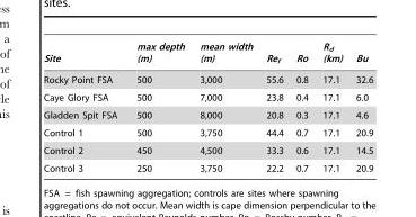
<table><thead><tr><td>Site</td><td>max depth (m)</td><td>mean width (m)</td><td>Re<sub>f</sub></td><td>Ro</td><td>R<sub>d</sub> (km)</td><td>Bu</td></tr></thead><tbody><tr><td>Rocky Point FSA</td><td>500</td><td>3,000</td><td>55.6</td><td>0.8</td><td>17.1</td><td>32.6</td></tr><tr><td>Caye Glory FSA</td><td>500</td><td>7,000</td><td>23.8</td><td>0.4</td><td>17.1</td><td>6.0</td></tr><tr><td>Gladden Spit FSA</td><td>500</td><td>8,000</td><td>20.8</td><td>0.3</td><td>17.1</td><td>4.6</td></tr><tr><td>Control 1</td><td>500</td><td>3,750</td><td>44.4</td><td>0.7</td><td>17.1</td><td>20.9</td></tr><tr><td>Control 2</td><td>450</td><td>4,500</td><td>33.3</td><td>0.6</td><td>17.1</td><td>14.5</td></tr><tr><td>Control 3</td><td>250</td><td>3,750</td><td>22.2</td><td>0.7</td><td>17.1</td><td>20.9</td></tr></tbody></table>